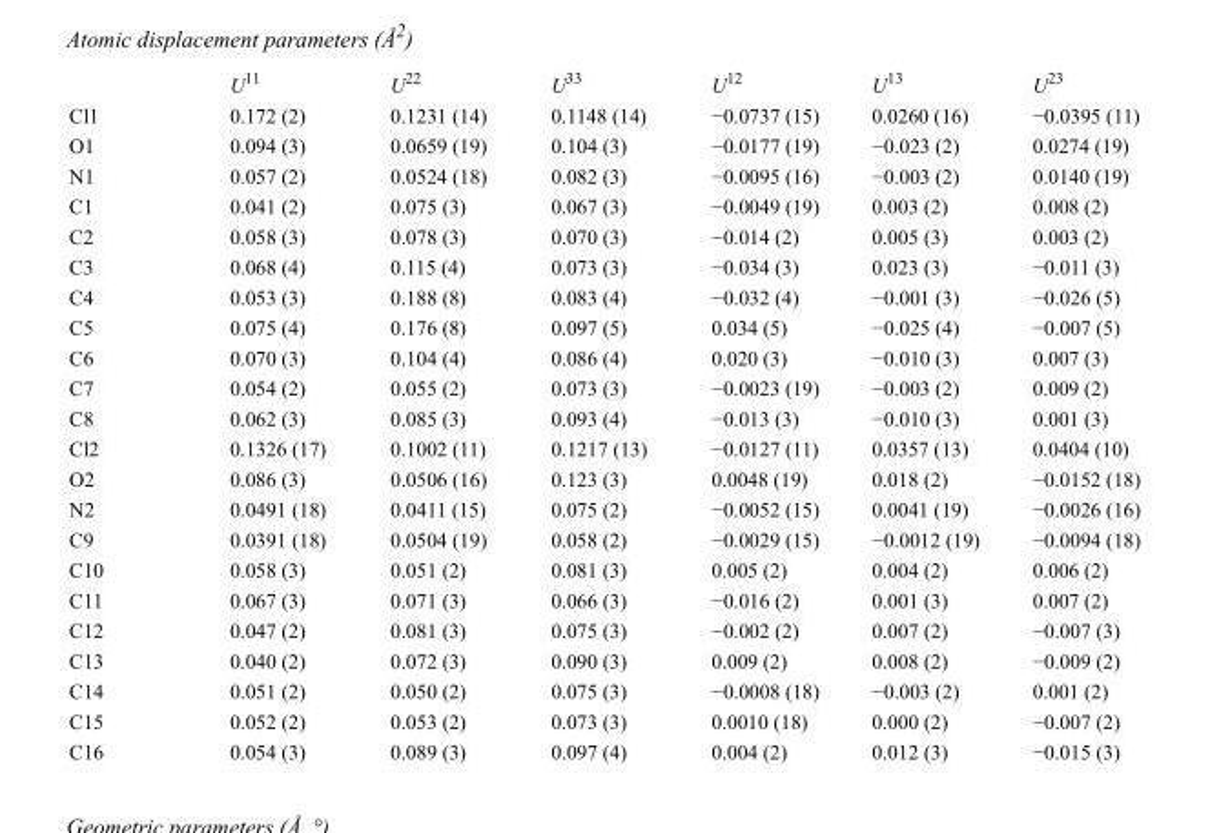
<table><thead><tr><td></td><td>U<sup>11</sup></td><td>U<sup>22</sup></td><td>U<sup>33</sup></td><td>U<sup>12</sup></td><td>U<sup>13</sup></td><td>U<sup>23</sup></td></tr></thead><tbody><tr><td>Cl1</td><td>0.172 (2)</td><td>0.1231 (14)</td><td>0.1148 (14)</td><td>−0.0737 (15)</td><td>0.0260 (16)</td><td>−0.0395 (11)</td></tr><tr><td>O1</td><td>0.094 (3)</td><td>0.0659 (19)</td><td>0.104 (3)</td><td>−0.0177 (19)</td><td>−0.023 (2)</td><td>0.0274 (19)</td></tr><tr><td>N1</td><td>0.057 (2)</td><td>0.0524 (18)</td><td>0.082 (3)</td><td>−0.0095 (16)</td><td>−0.003 (2)</td><td>0.0140 (19)</td></tr><tr><td>C1</td><td>0.041 (2)</td><td>0.075 (3)</td><td>0.067 (3)</td><td>−0.0049 (19)</td><td>0.003 (2)</td><td>0.008 (2)</td></tr><tr><td>C2</td><td>0.058 (3)</td><td>0.078 (3)</td><td>0.070 (3)</td><td>−0.014 (2)</td><td>0.005 (3)</td><td>0.003 (2)</td></tr><tr><td>C3</td><td>0.068 (4)</td><td>0.115 (4)</td><td>0.073 (3)</td><td>−0.034 (3)</td><td>0.023 (3)</td><td>−0.011 (3)</td></tr><tr><td>C4</td><td>0.053 (3)</td><td>0.188 (8)</td><td>0.083 (4)</td><td>−0.032 (4)</td><td>−0.001 (3)</td><td>−0.026 (5)</td></tr><tr><td>C5</td><td>0.075 (4)</td><td>0.176 (8)</td><td>0.097 (5)</td><td>0.034 (5)</td><td>−0.025 (4)</td><td>−0.007 (5)</td></tr><tr><td>C6</td><td>0.070 (3)</td><td>0.104 (4)</td><td>0.086 (4)</td><td>0.020 (3)</td><td>−0.010 (3)</td><td>0.007 (3)</td></tr><tr><td>C7</td><td>0.054 (2)</td><td>0.055 (2)</td><td>0.073 (3)</td><td>−0.0023 (19)</td><td>−0.003 (2)</td><td>0.009 (2)</td></tr><tr><td>C8</td><td>0.062 (3)</td><td>0.085 (3)</td><td>0.093 (4)</td><td>−0.013 (3)</td><td>−0.010 (3)</td><td>0.001 (3)</td></tr><tr><td>Cl2</td><td>0.1326 (17)</td><td>0.1002 (11)</td><td>0.1217 (13)</td><td>−0.0127 (11)</td><td>0.0357 (13)</td><td>0.0404 (10)</td></tr><tr><td>O2</td><td>0.086 (3)</td><td>0.0506 (16)</td><td>0.123 (3)</td><td>0.0048 (19)</td><td>0.018 (2)</td><td>−0.0152 (18)</td></tr><tr><td>N2</td><td>0.0491 (18)</td><td>0.0411 (15)</td><td>0.075 (2)</td><td>−0.0052 (15)</td><td>0.0041 (19)</td><td>−0.0026 (16)</td></tr><tr><td>C9</td><td>0.0391 (18)</td><td>0.0504 (19)</td><td>0.058 (2)</td><td>−0.0029 (15)</td><td>−0.0012 (19)</td><td>−0.0094 (18)</td></tr><tr><td>C10</td><td>0.058 (3)</td><td>0.051 (2)</td><td>0.081 (3)</td><td>0.005 (2)</td><td>0.004 (2)</td><td>0.006 (2)</td></tr><tr><td>C11</td><td>0.067 (3)</td><td>0.071 (3)</td><td>0.066 (3)</td><td>−0.016 (2)</td><td>0.001 (3)</td><td>0.007 (2)</td></tr><tr><td>C12</td><td>0.047 (2)</td><td>0.081 (3)</td><td>0.075 (3)</td><td>−0.002 (2)</td><td>0.007 (2)</td><td>−0.007 (3)</td></tr><tr><td>C13</td><td>0.040 (2)</td><td>0.072 (3)</td><td>0.090 (3)</td><td>0.009 (2)</td><td>0.008 (2)</td><td>−0.009 (2)</td></tr><tr><td>C14</td><td>0.051 (2)</td><td>0.050 (2)</td><td>0.075 (3)</td><td>−0.0008 (18)</td><td>−0.003 (2)</td><td>0.001 (2)</td></tr><tr><td>C15</td><td>0.052 (2)</td><td>0.053 (2)</td><td>0.073 (3)</td><td>0.0010 (18)</td><td>0.000 (2)</td><td>−0.007 (2)</td></tr><tr><td>C16</td><td>0.054 (3)</td><td>0.089 (3)</td><td>0.097 (4)</td><td>0.004 (2)</td><td>0.012 (3)</td><td>−0.015 (3)</td></tr></tbody></table>